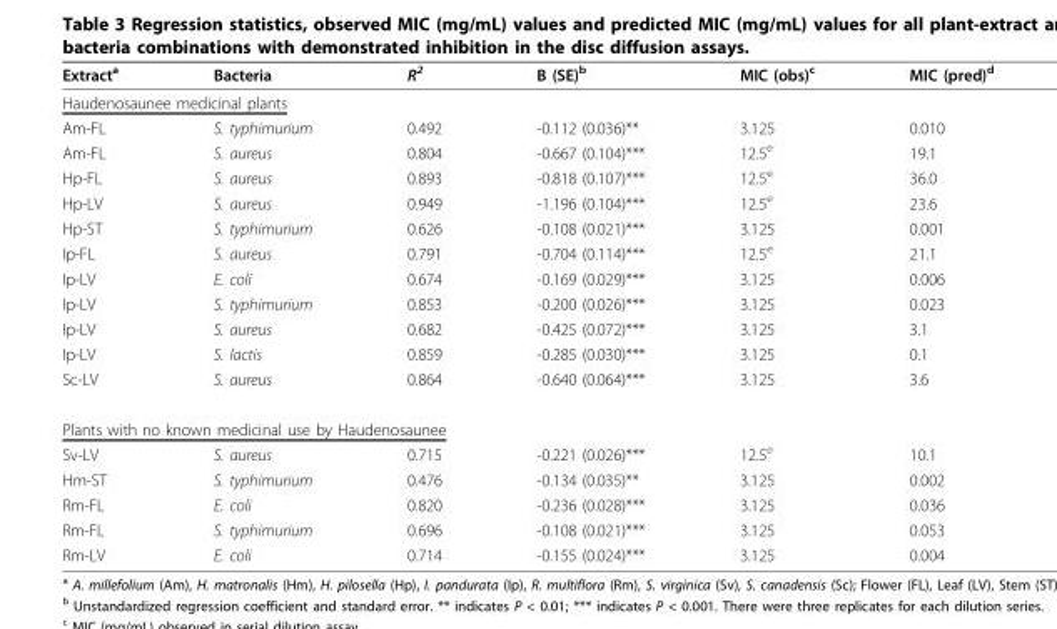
<table><thead><tr><td>Extract<sup>a</sup></td><td>Bacteria</td><td>R<sup>2</sup></td><td>B (SE)<sup>b</sup></td><td>MIC (obs)<sup>c</sup></td><td>MIC (pred)<sup>d</sup></td></tr></thead><tbody><tr><td colspan="6">Haudenosaunee medicinal plants</td></tr><tr><td>Am-FL</td><td>S. typhimurium</td><td>0.492</td><td>-0.112 (0.036)**</td><td>3.125</td><td>0.010</td></tr><tr><td>Am-FL</td><td>S. aureus</td><td>0.804</td><td>-0.667 (0.104)***</td><td>12.5<sup>e</sup></td><td>19.1</td></tr><tr><td>Hp-FL</td><td>S. aureus</td><td>0.893</td><td>-0.818 (0.107)***</td><td>12.5<sup>e</sup></td><td>36.0</td></tr><tr><td>Hp-LV</td><td>S. aureus</td><td>0.949</td><td>-1.196 (0.104)***</td><td>12.5<sup>e</sup></td><td>23.6</td></tr><tr><td>Hp-ST</td><td>S. typhimurium</td><td>0.626</td><td>-0.108 (0.021)***</td><td>3.125</td><td>0.001</td></tr><tr><td>Ip-FL</td><td>S. aureus</td><td>0.791</td><td>-0.704 (0.114)***</td><td>12.5<sup>e</sup></td><td>21.1</td></tr><tr><td>Ip-LV</td><td>E. coli</td><td>0.674</td><td>-0.169 (0.029)***</td><td>3.125</td><td>0.006</td></tr><tr><td>Ip-LV</td><td>S. typhimurium</td><td>0.853</td><td>-0.200 (0.026)***</td><td>3.125</td><td>0.023</td></tr><tr><td>Ip-LV</td><td>S. aureus</td><td>0.682</td><td>-0.425 (0.072)***</td><td>3.125</td><td>3.1</td></tr><tr><td>Ip-LV</td><td>S. lactis</td><td>0.859</td><td>-0.285 (0.030)***</td><td>3.125</td><td>0.1</td></tr><tr><td>Sc-LV</td><td>S. aureus</td><td>0.864</td><td>-0.640 (0.064)***</td><td>3.125</td><td>3.6</td></tr><tr><td colspan="6">Plants with no known medicinal use by Haudenosaunee</td></tr><tr><td>Sv-LV</td><td>S. aureus</td><td>0.715</td><td>-0.221 (0.026)***</td><td>12.5<sup>e</sup></td><td>10.1</td></tr><tr><td>Hm-ST</td><td>S. typhimurium</td><td>0.476</td><td>-0.134 (0.035)**</td><td>3.125</td><td>0.002</td></tr><tr><td>Rm-FL</td><td>E. coli</td><td>0.820</td><td>-0.236 (0.028)***</td><td>3.125</td><td>0.036</td></tr><tr><td>Rm-FL</td><td>S. typhimurium</td><td>0.696</td><td>-0.108 (0.021)***</td><td>3.125</td><td>0.053</td></tr><tr><td>Rm-LV</td><td>E. coli</td><td>0.714</td><td>-0.155 (0.024)***</td><td>3.125</td><td>0.004</td></tr></tbody></table>